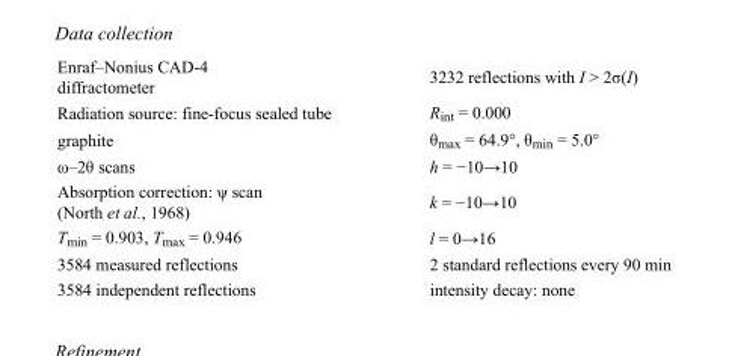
<table><tbody><tr><td>Enraf–Nonius CAD-4 diffractometer</td><td>3232 reflections with I &gt; 2σ(I)</td></tr><tr><td>Radiation source: fine-focus sealed tube</td><td>Rint = 0.000</td></tr><tr><td>graphite</td><td>θ<sub>max</sub> = 64.9°, θ<sub>min</sub> = 5.0°</td></tr><tr><td>ω–2θ scans</td><td>h = −10→10</td></tr><tr><td>Absorption correction: ψ scan (North et al., 1968)</td><td>k = −10→10</td></tr><tr><td>T<sub>min</sub> = 0.903, T<sub>max</sub> = 0.946</td><td>l = 0→16</td></tr><tr><td>3584 measured reflections</td><td>2 standard reflections every 90 min</td></tr><tr><td>3584 independent reflections</td><td>intensity decay: none</td></tr></tbody></table>